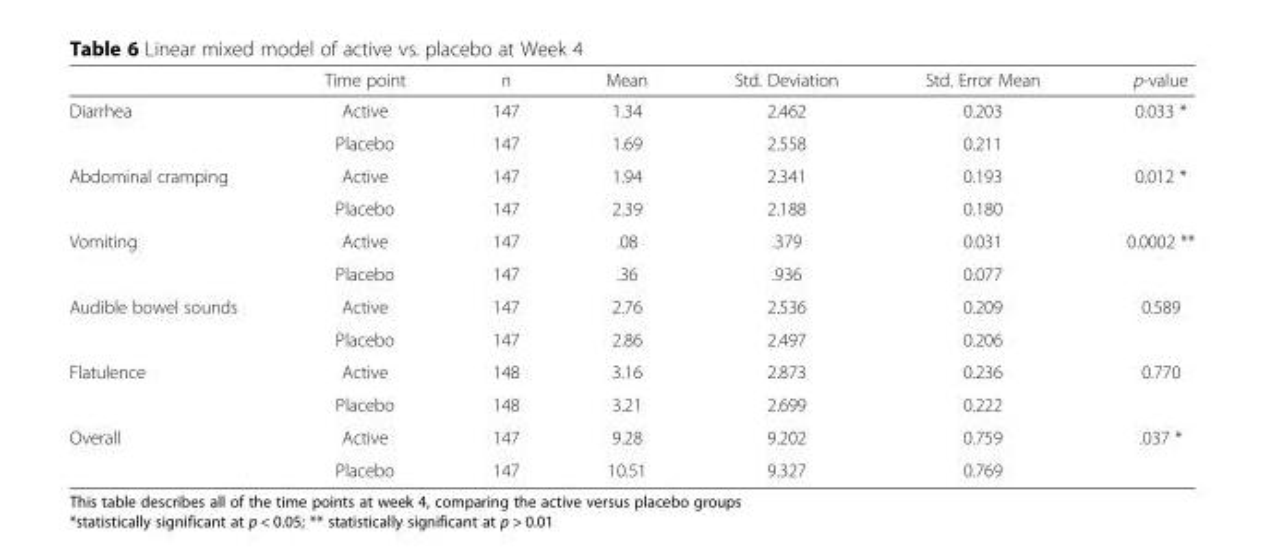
<table><thead><tr><td></td><td>Time point</td><td>n</td><td>Mean</td><td>Std. Deviation</td><td>Std. Error Mean</td><td>p-value</td></tr></thead><tbody><tr><td rowspan="2">Diarrhea</td><td>Active</td><td>147</td><td>1.34</td><td>2.462</td><td>0.203</td><td rowspan="2">0.033 *</td></tr><tr><td>Placebo</td><td>147</td><td>1.69</td><td>2.558</td><td>0.211</td></tr><tr><td rowspan="2">Abdominal cramping</td><td>Active</td><td>147</td><td>1.94</td><td>2.341</td><td>0.193</td><td rowspan="2">0.012 *</td></tr><tr><td>Placebo</td><td>147</td><td>2.39</td><td>2.188</td><td>0.180</td></tr><tr><td rowspan="2">Vomiting</td><td>Active</td><td>147</td><td>.08</td><td>.379</td><td>0.031</td><td rowspan="2">0.0002 **</td></tr><tr><td>Placebo</td><td>147</td><td>.36</td><td>.936</td><td>0.077</td></tr><tr><td rowspan="2">Audible bowel sounds</td><td>Active</td><td>147</td><td>2.76</td><td>2.536</td><td>0.209</td><td rowspan="2">0.589</td></tr><tr><td>Placebo</td><td>147</td><td>2.86</td><td>2.497</td><td>0.206</td></tr><tr><td rowspan="2">Flatulence</td><td>Active</td><td>148</td><td>3.16</td><td>2.873</td><td>0.236</td><td rowspan="2">0.770</td></tr><tr><td>Placebo</td><td>148</td><td>3.21</td><td>2.699</td><td>0.222</td></tr><tr><td rowspan="2">Overall</td><td>Active</td><td>147</td><td>9.28</td><td>9.202</td><td>0.759</td><td rowspan="2">.037 *</td></tr><tr><td>Placebo</td><td>147</td><td>10.51</td><td>9.327</td><td>0.769</td></tr></tbody></table>